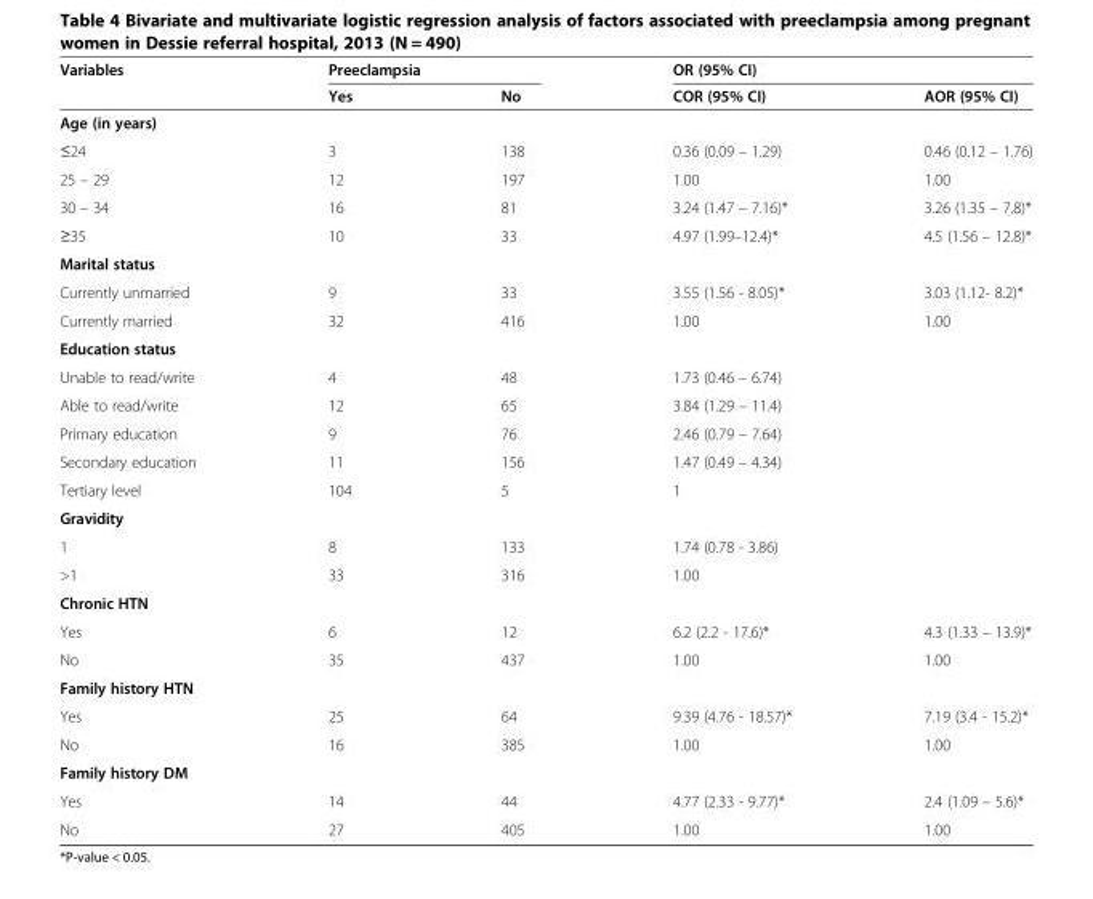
<table><thead><tr><td rowspan="2">Variables</td><td colspan="2">Preeclampsia</td><td colspan="2">OR (95% CI)</td></tr><tr><td>Yes</td><td>No</td><td>COR (95% CI)</td><td>AOR (95% CI)</td></tr></thead><tbody><tr><td colspan="5">Age (in years)</td></tr><tr><td>≤24</td><td>3</td><td>138</td><td>0.36 (0.09 – 1.29)</td><td>0.46 (0.12 – 1.76)</td></tr><tr><td>25 – 29</td><td>12</td><td>197</td><td>1.00</td><td>1.00</td></tr><tr><td>30 – 34</td><td>16</td><td>81</td><td>3.24 (1.47 – 7.16)*</td><td>3.26 (1.35 – 7.8)*</td></tr><tr><td>≥35</td><td>10</td><td>33</td><td>4.97 (1.99–12.4)*</td><td>4.5 (1.56 – 12.8)*</td></tr><tr><td colspan="5">Marital status</td></tr><tr><td>Currently unmarried</td><td>9</td><td>33</td><td>3.55 (1.56 - 8.05)*</td><td>3.03 (1.12- 8.2)*</td></tr><tr><td>Currently married</td><td>32</td><td>416</td><td>1.00</td><td>1.00</td></tr><tr><td colspan="5">Education status</td></tr><tr><td>Unable to read/write</td><td>4</td><td>48</td><td>1.73 (0.46 – 6.74)</td><td></td></tr><tr><td>Able to read/write</td><td>12</td><td>65</td><td>3.84 (1.29 – 11.4)</td><td></td></tr><tr><td>Primary education</td><td>9</td><td>76</td><td>2.46 (0.79 – 7.64)</td><td></td></tr><tr><td>Secondary education</td><td>11</td><td>156</td><td>1.47 (0.49 – 4.34)</td><td></td></tr><tr><td>Tertiary level</td><td>104</td><td>5</td><td>1</td><td></td></tr><tr><td colspan="5">Gravidity</td></tr><tr><td>1</td><td>8</td><td>133</td><td>1.74 (0.78 - 3.86)</td><td></td></tr><tr><td>&gt;1</td><td>33</td><td>316</td><td>1.00</td><td></td></tr><tr><td colspan="5">Chronic HTN</td></tr><tr><td>Yes</td><td>6</td><td>12</td><td>6.2 (2.2 - 17.6)*</td><td>4.3 (1.33 – 13.9)*</td></tr><tr><td>No</td><td>35</td><td>437</td><td>1.00</td><td>1.00</td></tr><tr><td colspan="5">Family history HTN</td></tr><tr><td>Yes</td><td>25</td><td>64</td><td>9.39 (4.76 - 18.57)*</td><td>7.19 (3.4 - 15.2)*</td></tr><tr><td>No</td><td>16</td><td>385</td><td>1.00</td><td>1.00</td></tr><tr><td colspan="5">Family history DM</td></tr><tr><td>Yes</td><td>14</td><td>44</td><td>4.77 (2.33 - 9.77)*</td><td>2.4 (1.09 – 5.6)*</td></tr><tr><td>No</td><td>27</td><td>405</td><td>1.00</td><td>1.00</td></tr></tbody></table>